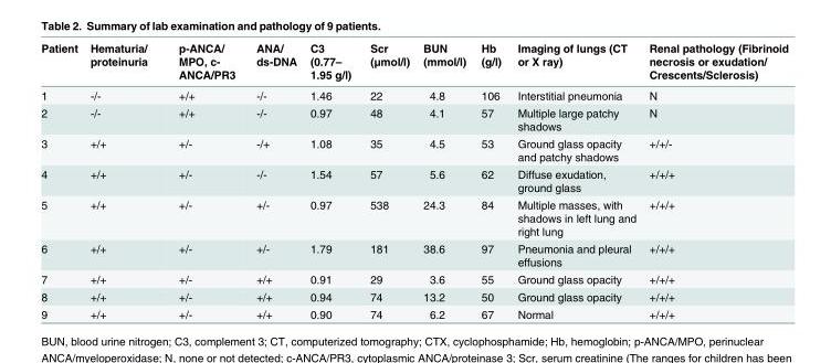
<table><thead><tr><td>Patient</td><td>Hematuria/ proteinuria</td><td>p-ANCA/ MPO, c- ANCA/PR3</td><td>ANA/ ds-DNA</td><td>C3 (0.77– 1.95 g/l)</td><td>Scr (μmol/l)</td><td>BUN (mmol/l)</td><td>Hb (g/l)</td><td>Imaging of lungs (CT or X ray)</td><td>Renal pathology (Fibrinoid necrosis or exudation/ Crescents/Sclerosis)</td></tr></thead><tbody><tr><td>1</td><td>-/-</td><td>+/+</td><td>-/-</td><td>1.46</td><td>22</td><td>4.8</td><td>106</td><td>Interstitial pneumonia</td><td>N</td></tr><tr><td>2</td><td>-/-</td><td>+/+</td><td>-/-</td><td>0.97</td><td>48</td><td>4.1</td><td>57</td><td>Multiple large patchy shadows</td><td>N</td></tr><tr><td>3</td><td>+/+</td><td>+/-</td><td>-/+</td><td>1.08</td><td>35</td><td>4.5</td><td>53</td><td>Ground glass opacity and patchy shadows</td><td>+/+/-</td></tr><tr><td>4</td><td>+/+</td><td>+/-</td><td>-/-</td><td>1.54</td><td>57</td><td>5.6</td><td>62</td><td>Diffuse exudation, ground glass</td><td>+/+/+</td></tr><tr><td>5</td><td>+/+</td><td>+/-</td><td>+/-</td><td>0.97</td><td>538</td><td>24.3</td><td>84</td><td>Multiple masses, with shadows in left lung and right lung</td><td>+/+/+</td></tr><tr><td>6</td><td>+/+</td><td>+/-</td><td>+/-</td><td>1.79</td><td>181</td><td>38.6</td><td>97</td><td>Pneumonia and pleural effusions</td><td>+/+/+</td></tr><tr><td>7</td><td>+/+</td><td>+/-</td><td>+/+</td><td>0.91</td><td>29</td><td>3.6</td><td>55</td><td>Ground glass opacity</td><td>+/+/+</td></tr><tr><td>8</td><td>+/+</td><td>+/-</td><td>+/+</td><td>0.94</td><td>74</td><td>13.2</td><td>50</td><td>Ground glass opacity</td><td>+/+/+</td></tr><tr><td>9</td><td>+/+</td><td>+/-</td><td>+/+</td><td>0.90</td><td>74</td><td>6.2</td><td>67</td><td>Normal</td><td>+/+/+</td></tr></tbody></table>